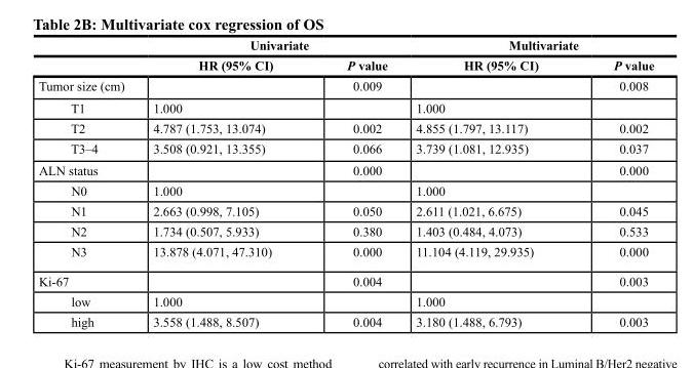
<table><thead><tr><td rowspan="2"></td><td colspan="2">Univariate</td><td colspan="2">Multivariate</td></tr><tr><td>HR (95% CI)</td><td>P value</td><td>HR (95% CI)</td><td>P value</td></tr></thead><tbody><tr><td>Tumor size (cm)</td><td></td><td>0.009</td><td></td><td>0.008</td></tr><tr><td>T1</td><td>1.000</td><td></td><td>1.000</td><td></td></tr><tr><td>T2</td><td>4.787 (1.753, 13.074)</td><td>0.002</td><td>4.855 (1.797, 13.117)</td><td>0.002</td></tr><tr><td>T3–4</td><td>3.508 (0.921, 13.355)</td><td>0.066</td><td>3.739 (1.081, 12.935)</td><td>0.037</td></tr><tr><td>ALN status</td><td></td><td>0.000</td><td></td><td>0.000</td></tr><tr><td>N0</td><td>1.000</td><td></td><td>1.000</td><td></td></tr><tr><td>N1</td><td>2.663 (0.998, 7.105)</td><td>0.050</td><td>2.611 (1.021, 6.675)</td><td>0.045</td></tr><tr><td>N2</td><td>1.734 (0.507, 5.933)</td><td>0.380</td><td>1.403 (0.484, 4.073)</td><td>0.533</td></tr><tr><td>N3</td><td>13.878 (4.071, 47.310)</td><td>0.000</td><td>11.104 (4.119, 29.935)</td><td>0.000</td></tr><tr><td>Ki-67</td><td></td><td>0.004</td><td></td><td>0.003</td></tr><tr><td>low</td><td>1.000</td><td></td><td>1.000</td><td></td></tr><tr><td>high</td><td>3.558 (1.488, 8.507)</td><td>0.004</td><td>3.180 (1.488, 6.793)</td><td>0.003</td></tr></tbody></table>